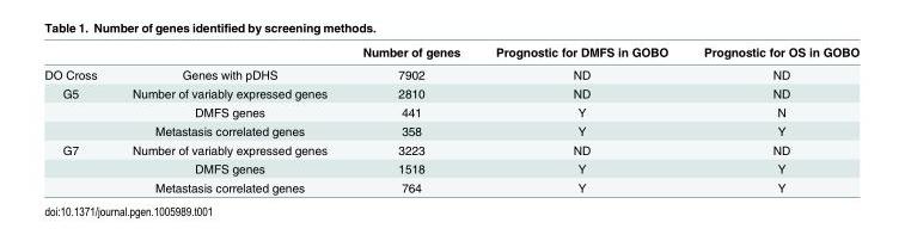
<table><thead><tr><td></td><td></td><td>Number of genes</td><td>Prognostic for DMFS in GOBO</td><td>Prognostic for OS in GOBO</td></tr></thead><tbody><tr><td>DO Cross</td><td>Genes with pDHS</td><td>7902</td><td>ND</td><td>ND</td></tr><tr><td rowspan="3">G5</td><td>Number of variably expressed genes</td><td>2810</td><td>ND</td><td>ND</td></tr><tr><td>DMFS genes</td><td>441</td><td>Y</td><td>N</td></tr><tr><td>Metastasis correlated genes</td><td>358</td><td>Y</td><td>Y</td></tr><tr><td rowspan="3">G7</td><td>Number of variably expressed genes</td><td>3223</td><td>ND</td><td>ND</td></tr><tr><td>DMFS genes</td><td>1518</td><td>Y</td><td>Y</td></tr><tr><td>Metastasis correlated genes</td><td>764</td><td>Y</td><td>Y</td></tr></tbody></table>